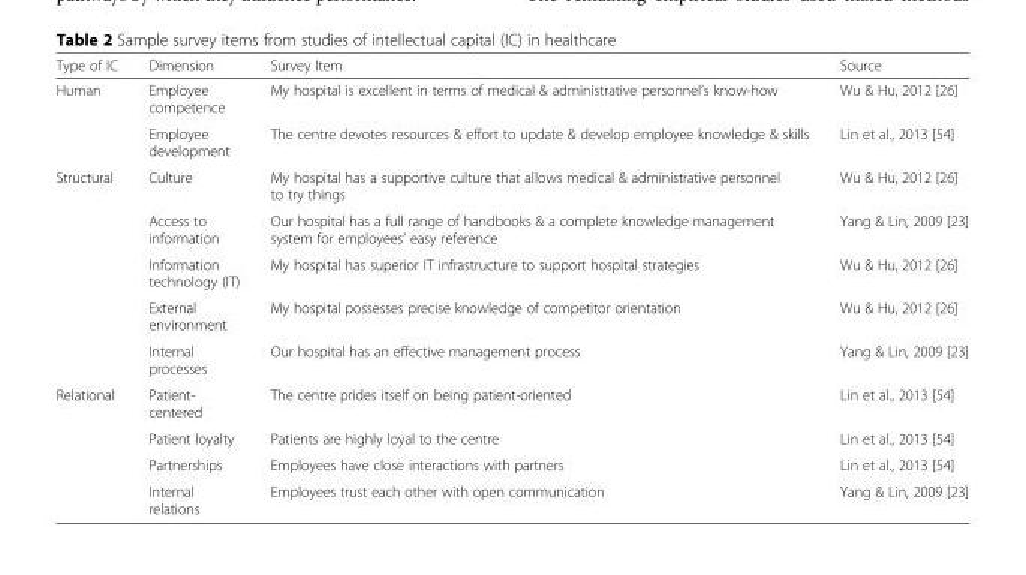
<table><thead><tr><td>Type of IC</td><td>Dimension</td><td>Survey Item</td><td>Source</td></tr></thead><tbody><tr><td rowspan="2">Human</td><td>Employee competence</td><td>My hospital is excellent in terms of medical &amp; administrative personnel’s know-how</td><td>Wu &amp; Hu, 2012 [26]</td></tr><tr><td>Employee development</td><td>The centre devotes resources &amp; effort to update &amp; develop employee knowledge &amp; skills</td><td>Lin et al., 2013 [54]</td></tr><tr><td rowspan="5">Structural</td><td>Culture</td><td>My hospital has a supportive culture that allows medical &amp; administrative personnel to try things</td><td>Wu &amp; Hu, 2012 [26]</td></tr><tr><td>Access to information</td><td>Our hospital has a full range of handbooks &amp; a complete knowledge management system for employees’ easy reference</td><td>Yang &amp; Lin, 2009 [23]</td></tr><tr><td>Information technology (IT)</td><td>My hospital has superior IT infrastructure to support hospital strategies</td><td>Wu &amp; Hu, 2012 [26]</td></tr><tr><td>External environment</td><td>My hospital possesses precise knowledge of competitor orientation</td><td>Wu &amp; Hu, 2012 [26]</td></tr><tr><td>Internal processes</td><td>Our hospital has an effective management process</td><td>Yang &amp; Lin, 2009 [23]</td></tr><tr><td rowspan="4">Relational</td><td>Patient- centered</td><td>The centre prides itself on being patient-oriented</td><td>Lin et al., 2013 [54]</td></tr><tr><td>Patient loyalty</td><td>Patients are highly loyal to the centre</td><td>Lin et al., 2013 [54]</td></tr><tr><td>Partnerships</td><td>Employees have close interactions with partners</td><td>Lin et al., 2013 [54]</td></tr><tr><td>Internal relations</td><td>Employees trust each other with open communication</td><td>Yang &amp; Lin, 2009 [23]</td></tr></tbody></table>